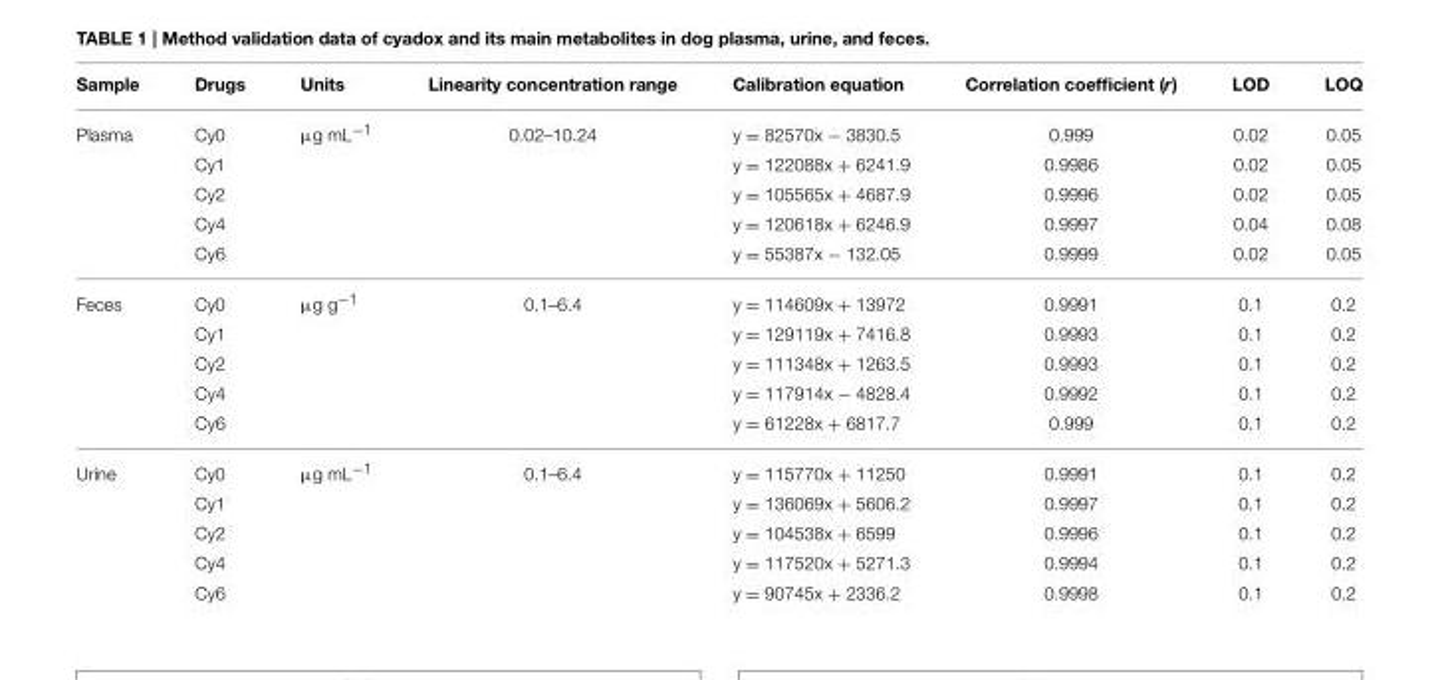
<table><thead><tr><td>Sample</td><td>Drugs</td><td>Units</td><td>Linearity concentration range</td><td>Calibration equation</td><td>Correlation coefficient (r)</td><td>LOD</td><td>LOQ</td></tr></thead><tbody><tr><td rowspan="5">Plasma</td><td>Cy0</td><td>µg mL<sup>−1</sup></td><td>0.02–10.24</td><td>y = 82570x − 3830.5</td><td>0.999</td><td>0.02</td><td>0.05</td></tr><tr><td>Cy1</td><td></td><td></td><td>y = 122088x + 6241.9</td><td>0.9986</td><td>0.02</td><td>0.05</td></tr><tr><td>Cy2</td><td></td><td></td><td>y = 105565x + 4687.9</td><td>0.9996</td><td>0.02</td><td>0.05</td></tr><tr><td>Cy4</td><td></td><td></td><td>y = 120618x + 6246.9</td><td>0.9997</td><td>0.04</td><td>0.08</td></tr><tr><td>Cy6</td><td></td><td></td><td>y = 55387x − 132.05</td><td>0.9999</td><td>0.02</td><td>0.05</td></tr><tr><td rowspan="5">Feces</td><td>Cy0</td><td>µg g<sup>−1</sup></td><td>0.1–6.4</td><td>y = 114609x + 13972</td><td>0.9991</td><td>0.1</td><td>0.2</td></tr><tr><td>Cy1</td><td></td><td></td><td>y = 129119x + 7416.8</td><td>0.9993</td><td>0.1</td><td>0.2</td></tr><tr><td>Cy2</td><td></td><td></td><td>y = 111348x + 1263.5</td><td>0.9993</td><td>0.1</td><td>0.2</td></tr><tr><td>Cy4</td><td></td><td></td><td>y = 117914x − 4828.4</td><td>0.9992</td><td>0.1</td><td>0.2</td></tr><tr><td>Cy6</td><td></td><td></td><td>y = 61228x + 6817.7</td><td>0.999</td><td>0.1</td><td>0.2</td></tr><tr><td rowspan="5">Urine</td><td>Cy0</td><td>µg mL<sup>−1</sup></td><td>0.1–6.4</td><td>y = 115770x + 11250</td><td>0.9991</td><td>0.1</td><td>0.2</td></tr><tr><td>Cy1</td><td></td><td></td><td>y = 136069x + 5606.2</td><td>0.9997</td><td>0.1</td><td>0.2</td></tr><tr><td>Cy2</td><td></td><td></td><td>y = 104538x + 6599</td><td>0.9996</td><td>0.1</td><td>0.2</td></tr><tr><td>Cy4</td><td></td><td></td><td>y = 117520x + 5271.3</td><td>0.9994</td><td>0.1</td><td>0.2</td></tr><tr><td>Cy6</td><td></td><td></td><td>y = 90745x + 2336.2</td><td>0.9998</td><td>0.1</td><td>0.2</td></tr></tbody></table>